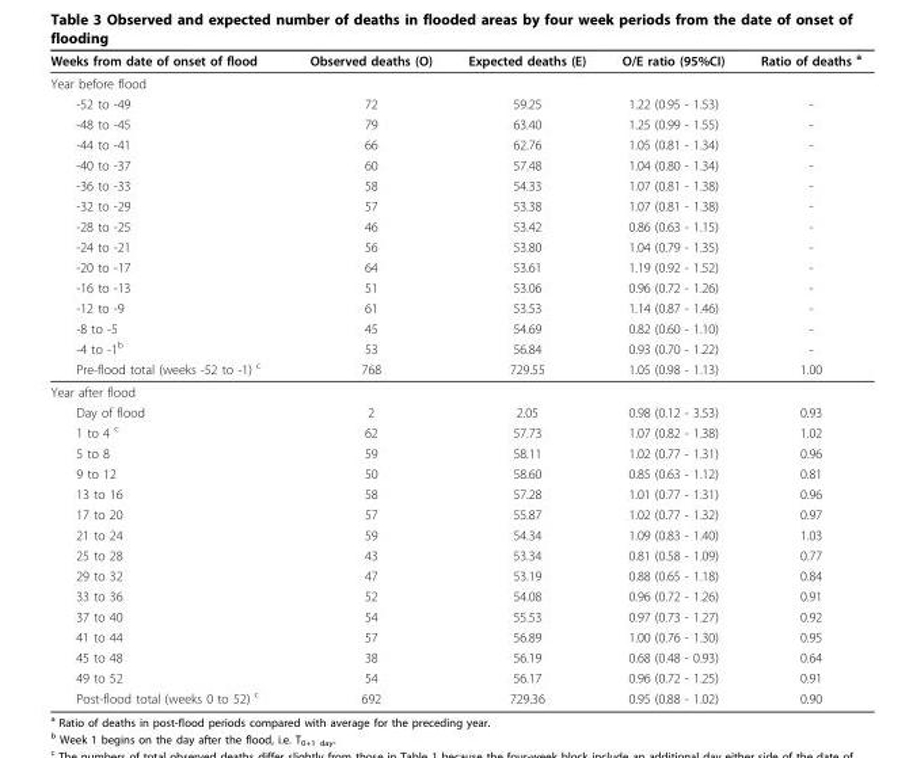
<table><thead><tr><td>Weeks from date of onset of flood</td><td>Observed deaths (O)</td><td>Expected deaths (E)</td><td>O/E ratio (95%CI)</td><td>Ratio of deaths <sup>a</sup></td></tr></thead><tbody><tr><td colspan="5">Year before flood</td></tr><tr><td>-52 to -49</td><td>72</td><td>59.25</td><td>1.22 (0.95 - 1.53)</td><td>-</td></tr><tr><td>-48 to -45</td><td>79</td><td>63.40</td><td>1.25 (0.99 - 1.55)</td><td>-</td></tr><tr><td>-44 to -41</td><td>66</td><td>62.76</td><td>1.05 (0.81 - 1.34)</td><td>-</td></tr><tr><td>-40 to -37</td><td>60</td><td>57.48</td><td>1.04 (0.80 - 1.34)</td><td>-</td></tr><tr><td>-36 to -33</td><td>58</td><td>54.33</td><td>1.07 (0.81 - 1.38)</td><td>-</td></tr><tr><td>-32 to -29</td><td>57</td><td>53.38</td><td>1.07 (0.81 - 1.38)</td><td>-</td></tr><tr><td>-28 to -25</td><td>46</td><td>53.42</td><td>0.86 (0.63 - 1.15)</td><td>-</td></tr><tr><td>-24 to -21</td><td>56</td><td>53.80</td><td>1.04 (0.79 - 1.35)</td><td>-</td></tr><tr><td>-20 to -17</td><td>64</td><td>53.61</td><td>1.19 (0.92 - 1.52)</td><td>-</td></tr><tr><td>-16 to -13</td><td>51</td><td>53.06</td><td>0.96 (0.72 - 1.26)</td><td>-</td></tr><tr><td>-12 to -9</td><td>61</td><td>53.53</td><td>1.14 (0.87 - 1.46)</td><td>-</td></tr><tr><td>-8 to -5</td><td>45</td><td>54.69</td><td>0.82 (0.60 - 1.10)</td><td>-</td></tr><tr><td>-4 to -1<sup>b</sup></td><td>53</td><td>56.84</td><td>0.93 (0.70 - 1.22)</td><td>-</td></tr><tr><td>Pre-flood total (weeks -52 to -1) <sup>c</sup></td><td>768</td><td>729.55</td><td>1.05 (0.98 - 1.13)</td><td>1.00</td></tr><tr><td colspan="5">Year after flood</td></tr><tr><td>Day of flood</td><td>2</td><td>2.05</td><td>0.98 (0.12 - 3.53)</td><td>0.93</td></tr><tr><td>1 to 4 <sup>c</sup></td><td>62</td><td>57.73</td><td>1.07 (0.82 - 1.38)</td><td>1.02</td></tr><tr><td>5 to 8</td><td>59</td><td>58.11</td><td>1.02 (0.77 - 1.31)</td><td>0.96</td></tr><tr><td>9 to 12</td><td>50</td><td>58.60</td><td>0.85 (0.63 - 1.12)</td><td>0.81</td></tr><tr><td>13 to 16</td><td>58</td><td>57.28</td><td>1.01 (0.77 - 1.31)</td><td>0.96</td></tr><tr><td>17 to 20</td><td>57</td><td>55.87</td><td>1.02 (0.77 - 1.32)</td><td>0.97</td></tr><tr><td>21 to 24</td><td>59</td><td>54.34</td><td>1.09 (0.83 - 1.40)</td><td>1.03</td></tr><tr><td>25 to 28</td><td>43</td><td>53.34</td><td>0.81 (0.58 - 1.09)</td><td>0.77</td></tr><tr><td>29 to 32</td><td>47</td><td>53.19</td><td>0.88 (0.65 - 1.18)</td><td>0.84</td></tr><tr><td>33 to 36</td><td>52</td><td>54.08</td><td>0.96 (0.72 - 1.26)</td><td>0.91</td></tr><tr><td>37 to 40</td><td>54</td><td>55.53</td><td>0.97 (0.73 - 1.27)</td><td>0.92</td></tr><tr><td>41 to 44</td><td>57</td><td>56.89</td><td>1.00 (0.76 - 1.30)</td><td>0.95</td></tr><tr><td>45 to 48</td><td>38</td><td>56.19</td><td>0.68 (0.48 - 0.93)</td><td>0.64</td></tr><tr><td>49 to 52</td><td>54</td><td>56.17</td><td>0.96 (0.72 - 1.25)</td><td>0.91</td></tr><tr><td>Post-flood total (weeks 0 to 52) <sup>c</sup></td><td>692</td><td>729.36</td><td>0.95 (0.88 - 1.02)</td><td>0.90</td></tr></tbody></table>